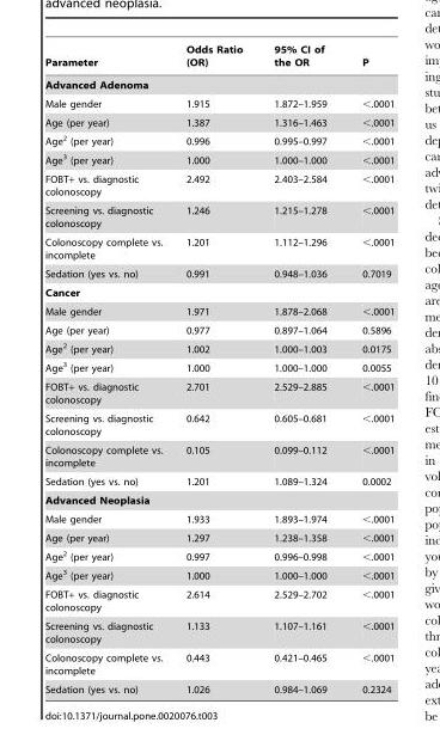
<table><thead><tr><td>Parameter</td><td>Odds Ratio (OR)</td><td>95% CI of the OR</td><td>P</td></tr></thead><tbody><tr><td colspan="4">Advanced Adenoma</td></tr><tr><td>Male gender</td><td>1.915</td><td>1.872–1.959</td><td>&lt;.0001</td></tr><tr><td>Age (per year)</td><td>1.387</td><td>1.316–1.463</td><td>&lt;.0001</td></tr><tr><td>Age<sup>2</sup> (per year)</td><td>0.996</td><td>0.995–0.997</td><td>&lt;.0001</td></tr><tr><td>Age<sup>3</sup> (per year)</td><td>1.000</td><td>1.000–1.000</td><td>&lt;.0001</td></tr><tr><td>FOBT+ vs. diagnostic colonoscopy</td><td>2.492</td><td>2.403–2.584</td><td>&lt;.0001</td></tr><tr><td>Screening vs. diagnostic colonoscopy</td><td>1.246</td><td>1.215–1.278</td><td>&lt;.0001</td></tr><tr><td>Colonoscopy complete vs. incomplete</td><td>1.201</td><td>1.112–1.296</td><td>&lt;.0001</td></tr><tr><td>Sedation (yes vs. no)</td><td>0.991</td><td>0.948–1.036</td><td>0.7019</td></tr><tr><td colspan="4">Cancer</td></tr><tr><td>Male gender</td><td>1.971</td><td>1.878–2.068</td><td>&lt;.0001</td></tr><tr><td>Age (per year)</td><td>0.977</td><td>0.897–1.064</td><td>0.5896</td></tr><tr><td>Age<sup>2</sup> (per year)</td><td>1.002</td><td>1.000–1.003</td><td>0.0175</td></tr><tr><td>Age<sup>3</sup> (per year)</td><td>1.000</td><td>1.000–1.000</td><td>0.0055</td></tr><tr><td>FOBT+ vs. diagnostic colonoscopy</td><td>2.701</td><td>2.529–2.885</td><td>&lt;.0001</td></tr><tr><td>Screening vs. diagnostic colonoscopy</td><td>0.642</td><td>0.605–0.681</td><td>&lt;.0001</td></tr><tr><td>Colonoscopy complete vs. incomplete</td><td>0.105</td><td>0.099–0.112</td><td>&lt;.0001</td></tr><tr><td>Sedation (yes vs. no)</td><td>1.201</td><td>1.089–1.324</td><td>0.0002</td></tr><tr><td colspan="4">Advanced Neoplasia</td></tr><tr><td>Male gender</td><td>1.933</td><td>1.893–1.974</td><td>&lt;.0001</td></tr><tr><td>Age (per year)</td><td>1.297</td><td>1.238–1.358</td><td>&lt;.0001</td></tr><tr><td>Age<sup>2</sup> (per year)</td><td>0.997</td><td>0.996–0.998</td><td>&lt;.0001</td></tr><tr><td>Age<sup>3</sup> (per year)</td><td>1.000</td><td>1.000–1.000</td><td>&lt;.0001</td></tr><tr><td>FOBT+ vs. diagnostic colonoscopy</td><td>2.614</td><td>2.529–2.702</td><td>&lt;.0001</td></tr><tr><td>Screening vs. diagnostic colonoscopy</td><td>1.133</td><td>1.107–1.161</td><td>&lt;.0001</td></tr><tr><td>Colonoscopy complete vs. incomplete</td><td>0.443</td><td>0.421–0.465</td><td>&lt;.0001</td></tr><tr><td>Sedation (yes vs. no)</td><td>1.026</td><td>0.984–1.069</td><td>0.2324</td></tr></tbody></table>